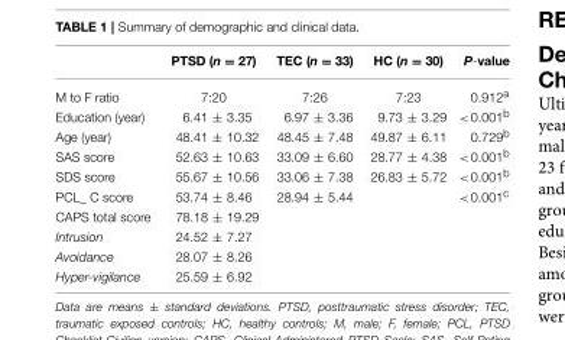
<table><thead><tr><td></td><td>PTSD (n = 27)</td><td>TEC (n = 33)</td><td>HC (n = 30)</td><td>P-value</td></tr></thead><tbody><tr><td>M to F ratio</td><td>7:20</td><td>7:26</td><td>7:23</td><td>0.912<sup>a</sup></td></tr><tr><td>Education (year)</td><td>6.41 ± 3.35</td><td>6.97 ± 3.36</td><td>9.73 ± 3.29</td><td>&lt;0.001<sup>b</sup></td></tr><tr><td>Age (year)</td><td>48.41 ± 10.32</td><td>48.45 ± 7.48</td><td>49.87 ± 6.11</td><td>0.729<sup>b</sup></td></tr><tr><td>SAS score</td><td>52.63 ± 10.63</td><td>33.09 ± 6.60</td><td>28.77 ± 4.38</td><td>&lt;0.001<sup>b</sup></td></tr><tr><td>SDS score</td><td>55.67 ± 10.56</td><td>33.06 ± 7.38</td><td>26.83 ± 5.72</td><td>&lt;0.001<sup>b</sup></td></tr><tr><td>PCL_ C score</td><td>53.74 ± 8.46</td><td>28.94 ± 5.44</td><td></td><td>&lt;0.001<sup>c</sup></td></tr><tr><td>CAPS total score</td><td>78.18 ± 19.29</td><td></td><td></td><td></td></tr><tr><td>Intrusion</td><td>24.52 ± 7.27</td><td></td><td></td><td></td></tr><tr><td>Avoidance</td><td>28.07 ± 8.26</td><td></td><td></td><td></td></tr><tr><td>Hyper-vigilance</td><td>25.59 ± 6.92</td><td></td><td></td><td></td></tr></tbody></table>